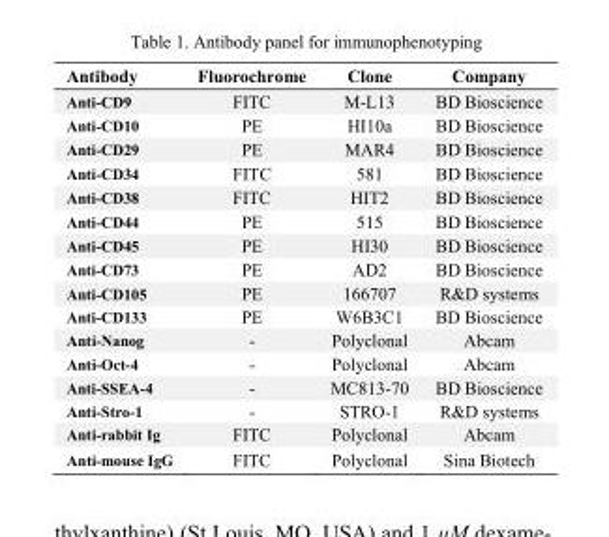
<table><thead><tr><td>Antibody</td><td>Fluorochrome</td><td>Clone</td><td>Company</td></tr></thead><tbody><tr><td>Anti-CD9</td><td>FITC</td><td>M-L13</td><td>BD Bioscience</td></tr><tr><td>Anti-CD10</td><td>PE</td><td>HI10a</td><td>BD Bioscience</td></tr><tr><td>Anti-CD29</td><td>PE</td><td>MAR4</td><td>BD Bioscience</td></tr><tr><td>Anti-CD34</td><td>FITC</td><td>581</td><td>BD Bioscience</td></tr><tr><td>Anti-CD38</td><td>FITC</td><td>HIT2</td><td>BD Bioscience</td></tr><tr><td>Anti-CD44</td><td>PE</td><td>515</td><td>BD Bioscience</td></tr><tr><td>Anti-CD45</td><td>PE</td><td>HI30</td><td>BD Bioscience</td></tr><tr><td>Anti-CD73</td><td>PE</td><td>AD2</td><td>BD Bioscience</td></tr><tr><td>Anti-CD105</td><td>PE</td><td>166707</td><td>R&amp;D systems</td></tr><tr><td>Anti-CD133</td><td>PE</td><td>W6B3C1</td><td>BD Bioscience</td></tr><tr><td>Anti-Nanog</td><td>-</td><td>Polyclonal</td><td>Abcam</td></tr><tr><td>Anti-Oct-4</td><td>-</td><td>Polyclonal</td><td>Abcam</td></tr><tr><td>Anti-SSEA-4</td><td>-</td><td>MC813-70</td><td>BD Bioscience</td></tr><tr><td>Anti-Stro-1</td><td>-</td><td>STRO-1</td><td>R&amp;D systems</td></tr><tr><td>Anti-rabbit Ig</td><td>FITC</td><td>Polyclonal</td><td>Abcam</td></tr><tr><td>Anti-mouse IgG</td><td>FITC</td><td>Polyclonal</td><td>Sina Biotech</td></tr></tbody></table>